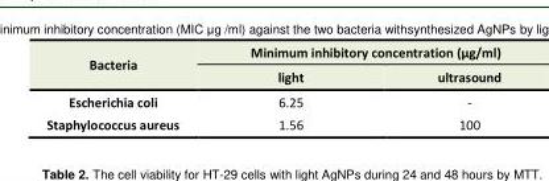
<table><tbody><tr><td rowspan="2">Bacteria</td><td colspan="2">Minimum inhibitory concentration (µg/ml)</td></tr><tr><td>light</td><td>ultrasound</td></tr><tr><td>Escherichia coli</td><td>6.25</td><td>-</td></tr><tr><td>Staphylococcus aureus</td><td>1.56</td><td>100</td></tr></tbody></table>